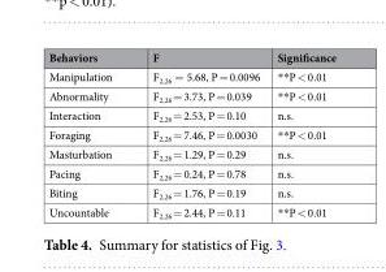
<table><thead><tr><td>Behaviors</td><td>F</td><td>Significance</td></tr></thead><tbody><tr><td>Manipulation</td><td>F<sub>2,26</sub> = 5.68, P = 0.0096</td><td>**P &lt; 0.01</td></tr><tr><td>Abnormality</td><td>F<sub>2,26</sub> = 3.73, P = 0.039</td><td>**P &lt; 0.01</td></tr><tr><td>Interaction</td><td>F<sub>2,26</sub> = 2.53, P = 0.10</td><td>n.s.</td></tr><tr><td>Foraging</td><td>F<sub>2,26</sub> = 7.46, P = 0.0030</td><td>**P &lt; 0.01</td></tr><tr><td>Masturbation</td><td>F<sub>2,26</sub> = 1.29, P = 0.29</td><td>n.s.</td></tr><tr><td>Pacing</td><td>F<sub>2,26</sub> = 0.24, P = 0.78</td><td>n.s.</td></tr><tr><td>Biting</td><td>F<sub>2,26</sub> = 1.76, P = 0.19</td><td>n.s.</td></tr><tr><td>Uncountable</td><td>F<sub>2,26</sub> = 2.44, P = 0.11</td><td>**P &lt; 0.01</td></tr></tbody></table>